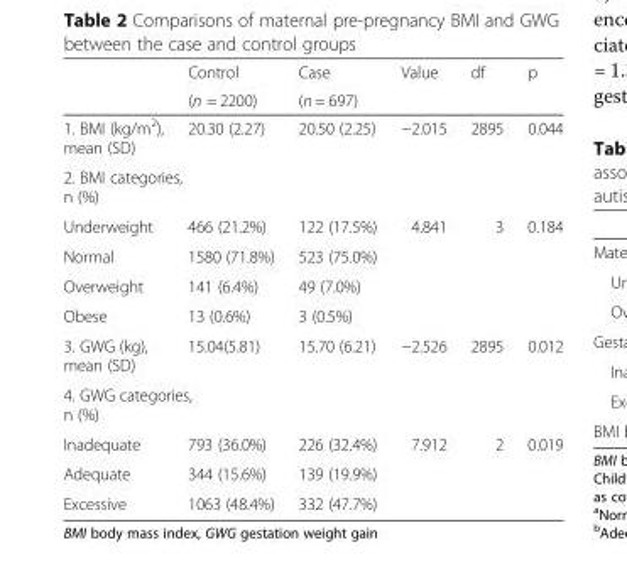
<table><thead><tr><td rowspan="2"></td><td rowspan="2">Control (n = 2200)</td><td rowspan="2">Case (n = 697)</td><td rowspan="2">Value</td><td rowspan="2">df</td><td rowspan="2">p</td></tr><tr></tr></thead><tbody><tr><td>1. BMI (kg/m<sup>2</sup>), mean (SD)</td><td>20.30 (2.27)</td><td>20.50 (2.25)</td><td>−2.015</td><td>2895</td><td>0.044</td></tr><tr><td colspan="6">2. BMI categories, n (%)</td></tr><tr><td>Underweight</td><td>466 (21.2%)</td><td>122 (17.5%)</td><td>4.841</td><td>3</td><td>0.184</td></tr><tr><td>Normal</td><td>1580 (71.8%)</td><td>523 (75.0%)</td><td></td><td></td><td></td></tr><tr><td>Overweight</td><td>141 (6.4%)</td><td>49 (7.0%)</td><td></td><td></td><td></td></tr><tr><td>Obese</td><td>13 (0.6%)</td><td>3 (0.5%)</td><td></td><td></td><td></td></tr><tr><td>3. GWG (kg), mean (SD)</td><td>15.04(5.81)</td><td>15.70 (6.21)</td><td>−2.526</td><td>2895</td><td>0.012</td></tr><tr><td colspan="6">4. GWG categories, n (%)</td></tr><tr><td>Inadequate</td><td>793 (36.0%)</td><td>226 (32.4%)</td><td>7.912</td><td>2</td><td>0.019</td></tr><tr><td>Adequate</td><td>344 (15.6%)</td><td>139 (19.9%)</td><td></td><td></td><td></td></tr><tr><td>Excessive</td><td>1063 (48.4%)</td><td>332 (47.7%)</td><td></td><td></td><td></td></tr></tbody></table>